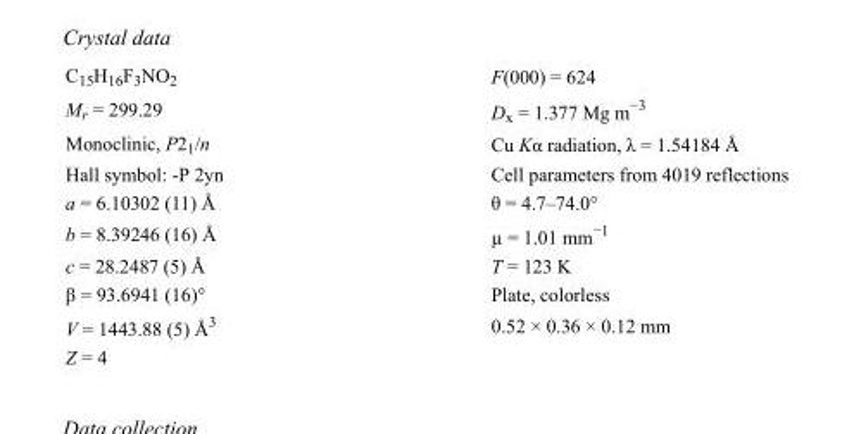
<table><tbody><tr><td>C<sub>15</sub>H<sub>16</sub>F<sub>3</sub>NO<sub>2</sub></td><td>F(000) = 624</td></tr><tr><td>M<sub>r</sub> = 299.29</td><td>D<sub>x</sub> = 1.377 Mg m<sup>−3</sup></td></tr><tr><td>Monoclinic, P2<sub>1</sub>/n</td><td>Cu Kα radiation, λ = 1.54184 Å</td></tr><tr><td>Hall symbol: -P 2yn</td><td>Cell parameters from 4019 reflections</td></tr><tr><td>a = 6.10302 (11) Å</td><td>θ = 4.7–74.0°</td></tr><tr><td>b = 8.39246 (16) Å</td><td>µ = 1.01 mm<sup>−1</sup></td></tr><tr><td>c = 28.2487 (5) Å</td><td>T = 123 K</td></tr><tr><td>β = 93.6941 (16)°</td><td>Plate, colorless</td></tr><tr><td>V = 1443.88 (5) Å<sup>3</sup></td><td>0.52 × 0.36 × 0.12 mm</td></tr><tr><td>Z = 4</td><td></td></tr></tbody></table>